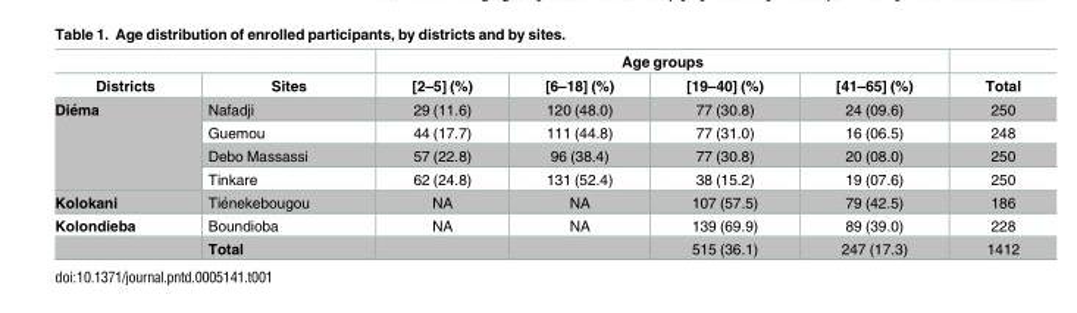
<table><thead><tr><td rowspan="2">Districts</td><td rowspan="2">Sites</td><td colspan="4">Age groups</td><td rowspan="2">Total</td></tr><tr><td>[2–5] (%)</td><td>[6–18] (%)</td><td>[19–40] (%)</td><td>[41–65] (%)</td></tr></thead><tbody><tr><td rowspan="4">Die´ma</td><td>Nafadji</td><td>29 (11.6)</td><td>120 (48.0)</td><td>77 (30.8)</td><td>24 (09.6)</td><td>250</td></tr><tr><td>Guemou</td><td>44 (17.7)</td><td>111 (44.8)</td><td>77 (31.0)</td><td>16 (06.5)</td><td>248</td></tr><tr><td>Debo Massassi</td><td>57 (22.8)</td><td>96 (38.4)</td><td>77 (30.8)</td><td>20 (08.0)</td><td>250</td></tr><tr><td>Tinkare</td><td>62 (24.8)</td><td>131 (52.4)</td><td>38 (15.2)</td><td>19 (07.6)</td><td>250</td></tr><tr><td>Kolokani</td><td>Tie´nekebougou</td><td>NA</td><td>NA</td><td>107 (57.5)</td><td>79 (42.5)</td><td>186</td></tr><tr><td rowspan="2">Kolondieba</td><td>Boundioba</td><td>NA</td><td>NA</td><td>139 (69.9)</td><td>89 (39.0)</td><td>228</td></tr><tr><td>Total</td><td></td><td></td><td>515 (36.1)</td><td>247 (17.3)</td><td>1412</td></tr></tbody></table>